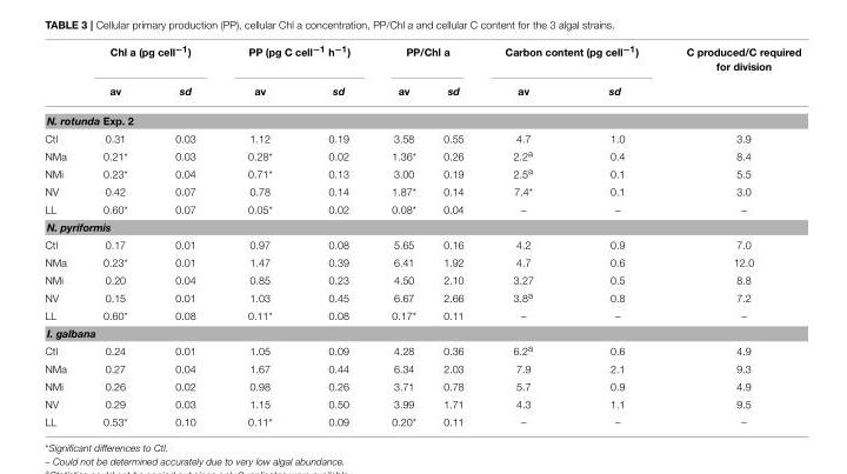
<table><thead><tr><td rowspan="2"></td><td colspan="2">Chl a (pg cell<sup>−1</sup>)</td><td colspan="2">PP (pg C cell<sup>−1</sup> h<sup>−1</sup>)</td><td colspan="2">PP/Chl a</td><td colspan="2">Carbon content (pg cell<sup>−1</sup>)</td><td rowspan="2">C produced/C required for division</td></tr><tr><td>av</td><td>sd</td><td>av</td><td>sd</td><td>av</td><td>sd</td><td>av</td><td>sd</td></tr></thead><tbody><tr><td colspan="10">N. rotunda Exp. 2</td></tr><tr><td>Ctl</td><td>0.31</td><td>0.03</td><td>1.12</td><td>0.19</td><td>3.58</td><td>0.55</td><td>4.7</td><td>1.0</td><td>3.9</td></tr><tr><td>NMa</td><td>0.21*</td><td>0.03</td><td>0.28*</td><td>0.02</td><td>1.36*</td><td>0.26</td><td>2.2<sup>a</sup></td><td>0.4</td><td>8.4</td></tr><tr><td>NMi</td><td>0.23*</td><td>0.04</td><td>0.71*</td><td>0.13</td><td>3.00</td><td>0.19</td><td>2.5<sup>a</sup></td><td>0.1</td><td>5.5</td></tr><tr><td>NV</td><td>0.42</td><td>0.07</td><td>0.78</td><td>0.14</td><td>1.87*</td><td>0.14</td><td>7.4*</td><td>0.1</td><td>3.0</td></tr><tr><td>LL</td><td>0.60*</td><td>0.07</td><td>0.05*</td><td>0.02</td><td>0.08*</td><td>0.04</td><td>–</td><td>–</td><td>–</td></tr><tr><td colspan="10">N. pyriformis</td></tr><tr><td>Ctl</td><td>0.17</td><td>0.01</td><td>0.97</td><td>0.08</td><td>5.65</td><td>0.16</td><td>4.2</td><td>0.9</td><td>7.0</td></tr><tr><td>NMa</td><td>0.23*</td><td>0.01</td><td>1.47</td><td>0.39</td><td>6.41</td><td>1.92</td><td>4.7</td><td>0.6</td><td>12.0</td></tr><tr><td>NMi</td><td>0.20</td><td>0.04</td><td>0.85</td><td>0.23</td><td>4.50</td><td>2.10</td><td>3.27</td><td>0.5</td><td>8.8</td></tr><tr><td>NV</td><td>0.15</td><td>0.01</td><td>1.03</td><td>0.45</td><td>6.67</td><td>2.66</td><td>3.8<sup>a</sup></td><td>0.8</td><td>7.2</td></tr><tr><td>LL</td><td>0.60*</td><td>0.08</td><td>0.11*</td><td>0.08</td><td>0.17*</td><td>0.11</td><td>–</td><td>–</td><td>–</td></tr><tr><td colspan="10">I. galbana</td></tr><tr><td>Ctl</td><td>0.24</td><td>0.01</td><td>1.05</td><td>0.09</td><td>4.28</td><td>0.36</td><td>6.2<sup>a</sup></td><td>0.6</td><td>4.9</td></tr><tr><td>NMa</td><td>0.27</td><td>0.04</td><td>1.67</td><td>0.44</td><td>6.34</td><td>2.03</td><td>7.9</td><td>2.1</td><td>9.3</td></tr><tr><td>NMi</td><td>0.26</td><td>0.02</td><td>0.98</td><td>0.26</td><td>3.71</td><td>0.78</td><td>5.7</td><td>0.9</td><td>4.9</td></tr><tr><td>NV</td><td>0.29</td><td>0.03</td><td>1.15</td><td>0.50</td><td>3.99</td><td>1.71</td><td>4.3</td><td>1.1</td><td>9.5</td></tr><tr><td>LL</td><td>0.53*</td><td>0.10</td><td>0.11*</td><td>0.09</td><td>0.20*</td><td>0.11</td><td>–</td><td>–</td><td>–</td></tr></tbody></table>